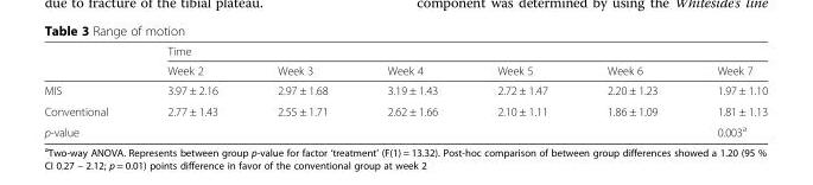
<table><thead><tr><td rowspan="2"></td><td colspan="6">Time</td></tr><tr><td>Week 2</td><td>Week 3</td><td>Week 4</td><td>Week 5</td><td>Week 6</td><td>Week 7</td></tr></thead><tbody><tr><td>MIS</td><td>3.97 ± 2.16</td><td>2.97 ± 1.68</td><td>3.19 ± 1.43</td><td>2.72 ± 1.47</td><td>2.20 ± 1.23</td><td>1.97 ± 1.10</td></tr><tr><td>Conventional</td><td>2.77 ± 1.43</td><td>2.55 ± 1.71</td><td>2.62 ± 1.66</td><td>2.10 ± 1.11</td><td>1.86 ± 1.09</td><td>1.81 ± 1.13</td></tr><tr><td>p-value</td><td></td><td></td><td></td><td></td><td></td><td>0.003<sup>a</sup></td></tr></tbody></table>